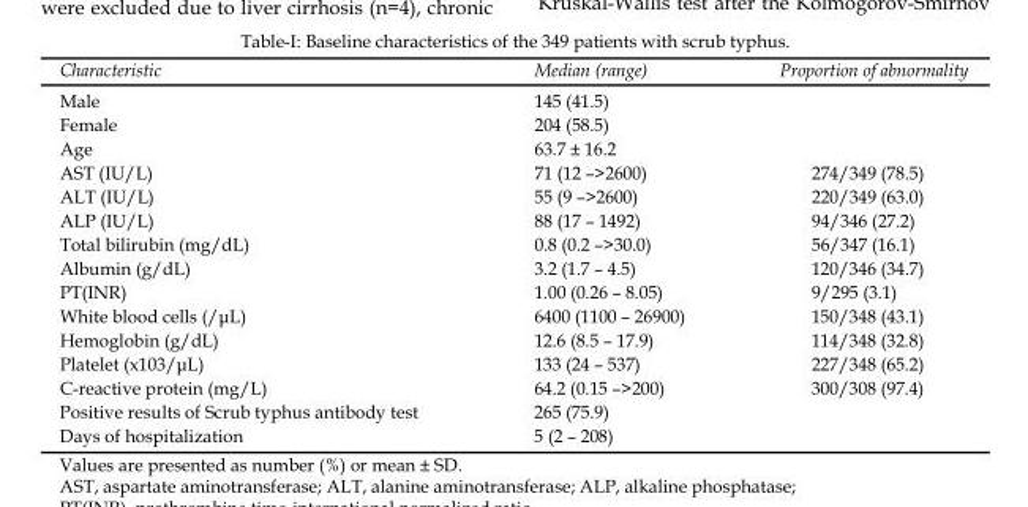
<table><thead><tr><td>Characteristic</td><td>Median (range)</td><td>Proportion of abnormality</td></tr></thead><tbody><tr><td>Male</td><td>145 (41.5)</td><td></td></tr><tr><td>Female</td><td>204 (58.5)</td><td></td></tr><tr><td>Age</td><td>63.7 ± 16.2</td><td></td></tr><tr><td>AST (IU/L)</td><td>71 (12 –&gt;2600)</td><td>274/349 (78.5)</td></tr><tr><td>ALT (IU/L)</td><td>55 (9 –&gt;2600)</td><td>220/349 (63.0)</td></tr><tr><td>ALP (IU/L)</td><td>88 (17 – 1492)</td><td>94/346 (27.2)</td></tr><tr><td>Total bilirubin (mg/dL)</td><td>0.8 (0.2 –&gt;30.0)</td><td>56/347 (16.1)</td></tr><tr><td>Albumin (g/dL)</td><td>3.2 (1.7 – 4.5)</td><td>120/346 (34.7)</td></tr><tr><td>PT(INR)</td><td>1.00 (0.26 – 8.05)</td><td>9/295 (3.1)</td></tr><tr><td>White blood cells (/μL)</td><td>6400 (1100 – 26900)</td><td>150/348 (43.1)</td></tr><tr><td>Hemoglobin (g/dL)</td><td>12.6 (8.5 – 17.9)</td><td>114/348 (32.8)</td></tr><tr><td>Platelet (x10<sup>3</sup>/μL)</td><td>133 (24 – 537)</td><td>227/348 (65.2)</td></tr><tr><td>C-reactive protein (mg/L)</td><td>64.2 (0.15 –&gt;200)</td><td>300/308 (97.4)</td></tr><tr><td>Positive results of Scrub typhus antibody test</td><td>265 (75.9)</td><td></td></tr><tr><td>Days of hospitalization</td><td>5 (2 – 208)</td><td></td></tr></tbody></table>